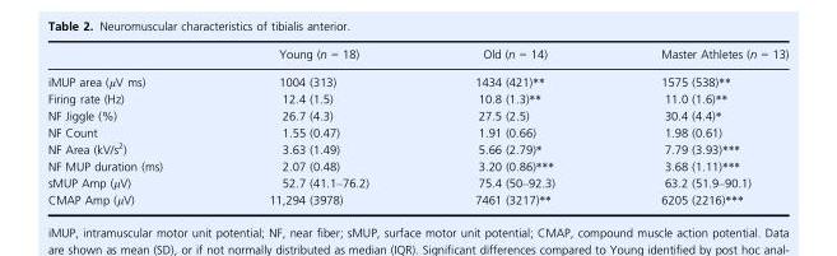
<table><thead><tr><td></td><td>Young (n = 18)</td><td>Old (n = 14)</td><td>Master Athletes (n = 13)</td></tr></thead><tbody><tr><td>iMUP area (μV ms)</td><td>1004 (313)</td><td>1434 (421)**</td><td>1575 (538)**</td></tr><tr><td>Firing rate (Hz)</td><td>12.4 (1.5)</td><td>10.8 (1.3)**</td><td>11.0 (1.6)**</td></tr><tr><td>NF Jiggle (%)</td><td>26.7 (4.3)</td><td>27.5 (2.5)</td><td>30.4 (4.4)*</td></tr><tr><td>NF Count</td><td>1.55 (0.47)</td><td>1.91 (0.66)</td><td>1.98 (0.61)</td></tr><tr><td>NF Area (kV/s<sup>2</sup>)</td><td>3.63 (1.49)</td><td>5.66 (2.79)*</td><td>7.79 (3.93)***</td></tr><tr><td>NF MUP duration (ms)</td><td>2.07 (0.48)</td><td>3.20 (0.86)***</td><td>3.68 (1.11)***</td></tr><tr><td>sMUP Amp (μV)</td><td>52.7 (41.1–76.2)</td><td>75.4 (50–92.3)</td><td>63.2 (51.9–90.1)</td></tr><tr><td>CMAP Amp (μV)</td><td>11,294 (3978)</td><td>7461 (3217)**</td><td>6205 (2216)***</td></tr></tbody></table>